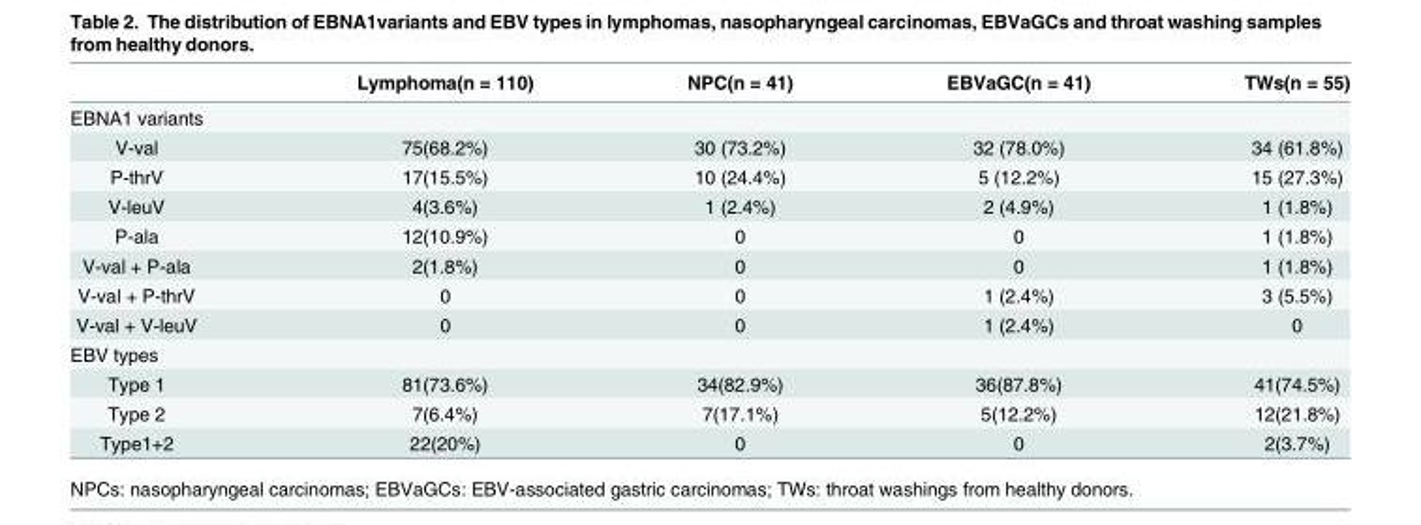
<table><thead><tr><td></td><td>Lymphoma(n = 110)</td><td>NPC(n = 41)</td><td>EBVaGC(n = 41)</td><td>TWs(n = 55)</td></tr></thead><tbody><tr><td colspan="5">EBNA1 variants</td></tr><tr><td>V-val</td><td>75(68.2%)</td><td>30 (73.2%)</td><td>32 (78.0%)</td><td>34 (61.8%)</td></tr><tr><td>P-thrV</td><td>17(15.5%)</td><td>10 (24.4%)</td><td>5 (12.2%)</td><td>15 (27.3%)</td></tr><tr><td>V-leuV</td><td>4(3.6%)</td><td>1 (2.4%)</td><td>2 (4.9%)</td><td>1 (1.8%)</td></tr><tr><td>P-ala</td><td>12(10.9%)</td><td>0</td><td>0</td><td>1 (1.8%)</td></tr><tr><td>V-val + P-ala</td><td>2(1.8%)</td><td>0</td><td>0</td><td>1 (1.8%)</td></tr><tr><td>V-val + P-thrV</td><td>0</td><td>0</td><td>1 (2.4%)</td><td>3 (5.5%)</td></tr><tr><td>V-val + V-leuV</td><td>0</td><td>0</td><td>1 (2.4%)</td><td>0</td></tr><tr><td colspan="5">EBV types</td></tr><tr><td>Type 1</td><td>81(73.6%)</td><td>34(82.9%)</td><td>36(87.8%)</td><td>41(74.5%)</td></tr><tr><td>Type 2</td><td>7(6.4%)</td><td>7(17.1%)</td><td>5(12.2%)</td><td>12(21.8%)</td></tr><tr><td>Type1+2</td><td>22(20%)</td><td>0</td><td>0</td><td>2(3.7%)</td></tr></tbody></table>